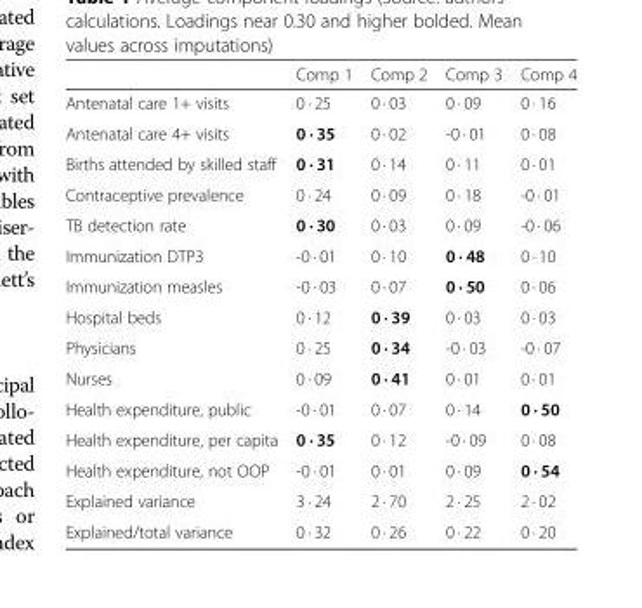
<table><thead><tr><td></td><td>Comp 1</td><td>Comp 2</td><td>Comp 3</td><td>Comp 4</td></tr></thead><tbody><tr><td>Antenatal care 1+ visits</td><td>0 · 25</td><td>0 · 03</td><td>0 · 09</td><td>0 · 16</td></tr><tr><td>Antenatal care 4+ visits</td><td>0 · 35</td><td>0 · 02</td><td>-0 · 01</td><td>0 · 08</td></tr><tr><td>Births attended by skilled staff</td><td>0 · 31</td><td>0 · 14</td><td>0 · 11</td><td>0 · 01</td></tr><tr><td>Contraceptive prevalence</td><td>0 · 24</td><td>0 · 09</td><td>0 · 18</td><td>-0 · 01</td></tr><tr><td>TB detection rate</td><td>0 · 30</td><td>0 · 03</td><td>0 · 09</td><td>-0 · 06</td></tr><tr><td>Immunization DTP3</td><td>-0 · 01</td><td>0 · 10</td><td>0 · 48</td><td>0 · 10</td></tr><tr><td>Immunization measles</td><td>-0 · 03</td><td>0 · 07</td><td>0 · 50</td><td>0 · 06</td></tr><tr><td>Hospital beds</td><td>0 · 12</td><td>0 · 39</td><td>0 · 03</td><td>0 · 03</td></tr><tr><td>Physicians</td><td>0 · 25</td><td>0 · 34</td><td>-0 · 03</td><td>-0 · 07</td></tr><tr><td>Nurses</td><td>0 · 09</td><td>0 · 41</td><td>0 · 01</td><td>0 · 01</td></tr><tr><td>Health expenditure, public</td><td>-0 · 01</td><td>0 · 07</td><td>0 · 14</td><td>0 · 50</td></tr><tr><td>Health expenditure, per capita</td><td>0 · 35</td><td>0 · 12</td><td>-0 · 09</td><td>0 · 08</td></tr><tr><td>Health expenditure, not OOP</td><td>-0 · 01</td><td>0 · 01</td><td>0 · 09</td><td>0 · 54</td></tr><tr><td>Explained variance</td><td>3 · 24</td><td>2 · 70</td><td>2 · 25</td><td>2 · 02</td></tr><tr><td>Explained/total variance</td><td>0 · 32</td><td>0 · 26</td><td>0 · 22</td><td>0 · 20</td></tr></tbody></table>